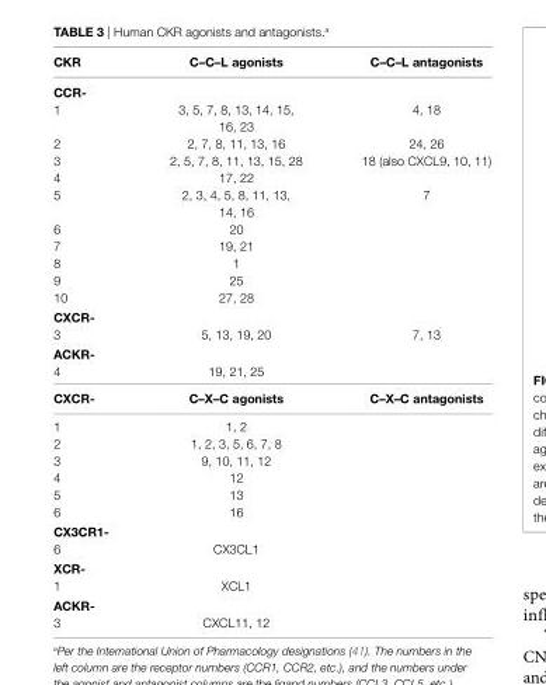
<table><thead><tr><td>CKR</td><td>C–C–l agonists</td><td>C–C–l antagonists</td></tr></thead><tbody><tr><td colspan="3">CCR-</td></tr><tr><td>1</td><td>3, 5, 7, 8, 13, 14, 15, 16, 23</td><td>4, 18</td></tr><tr><td>2</td><td>2, 7, 8, 11, 13, 16</td><td>24, 26</td></tr><tr><td>3</td><td>2, 5, 7, 8, 11, 13, 15, 28</td><td>18 (also CXCL9, 10, 11)</td></tr><tr><td>4</td><td>17, 22</td><td></td></tr><tr><td>5</td><td>2, 3, 4, 5, 8, 11, 13, 14, 16</td><td>7</td></tr><tr><td>6</td><td>20</td><td></td></tr><tr><td>7</td><td>19, 21</td><td></td></tr><tr><td>8</td><td>1</td><td></td></tr><tr><td>9</td><td>25</td><td></td></tr><tr><td>10</td><td>27, 28</td><td></td></tr><tr><td colspan="3">CXCR-</td></tr><tr><td>3</td><td>5, 13, 19, 20</td><td>7, 13</td></tr><tr><td colspan="3">ACKR-</td></tr><tr><td>4</td><td>19, 21, 25</td><td></td></tr><tr><td>CXCR-</td><td>C–X–C agonists</td><td>C–X–C antagonists</td></tr><tr><td>1</td><td>1, 2</td><td></td></tr><tr><td>2</td><td>1, 2, 3, 5, 6, 7, 8</td><td></td></tr><tr><td>3</td><td>9, 10, 11, 12</td><td></td></tr><tr><td>4</td><td>12</td><td></td></tr><tr><td>5</td><td>13</td><td></td></tr><tr><td>6</td><td>16</td><td></td></tr><tr><td colspan="3">CX3CR1-</td></tr><tr><td>6</td><td>CX3CL1</td><td></td></tr><tr><td colspan="3">XCR-</td></tr><tr><td>1</td><td>XCL1</td><td></td></tr><tr><td colspan="3">ACKR-</td></tr><tr><td>3</td><td>CXCL11, 12</td><td></td></tr></tbody></table>